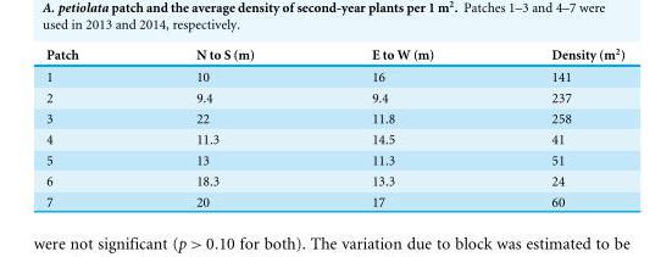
<table><thead><tr><td>Patch</td><td>N to S (m)</td><td>E to W (m)</td><td>Density (m<sup>2</sup>)</td></tr></thead><tbody><tr><td>1</td><td>10</td><td>16</td><td>141</td></tr><tr><td>2</td><td>9.4</td><td>9.4</td><td>237</td></tr><tr><td>3</td><td>22</td><td>11.8</td><td>258</td></tr><tr><td>4</td><td>11.3</td><td>14.5</td><td>41</td></tr><tr><td>5</td><td>13</td><td>11.3</td><td>51</td></tr><tr><td>6</td><td>18.3</td><td>13.3</td><td>24</td></tr><tr><td>7</td><td>20</td><td>17</td><td>60</td></tr></tbody></table>